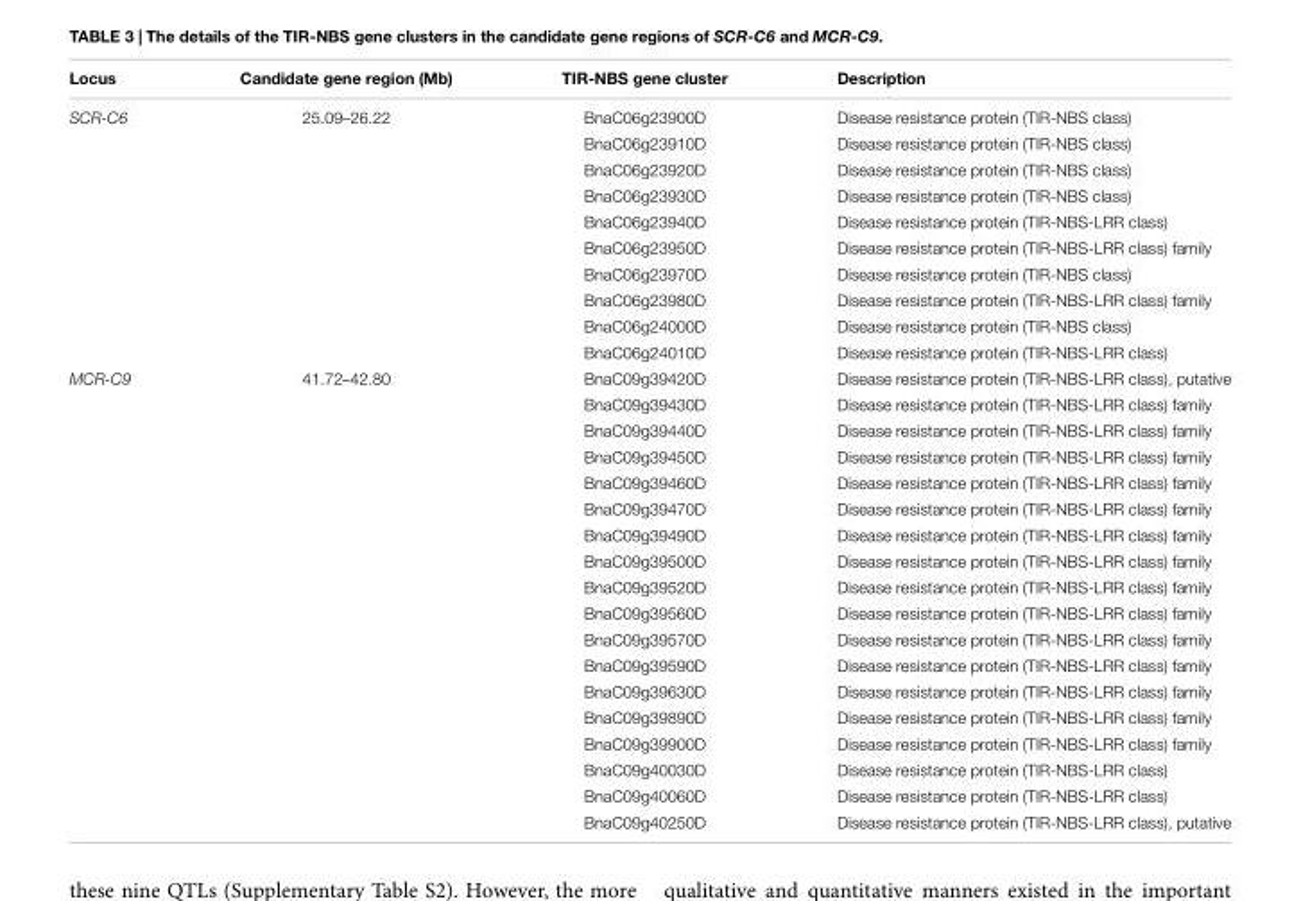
<table><thead><tr><td>Locus</td><td>Candidate gene region (Mb)</td><td>TIR-NBS gene cluster</td><td>Description</td></tr></thead><tbody><tr><td rowspan="10">SCR-C6</td><td>25.09–26.22</td><td>BnaC06g23900D</td><td>Disease resistance protein (TIR-NBS class)</td></tr><tr><td></td><td>BnaC06g23910D</td><td>Disease resistance protein (TIR-NBS class)</td></tr><tr><td></td><td>BnaC06g23920D</td><td>Disease resistance protein (TIR-NBS class)</td></tr><tr><td></td><td>BnaC06g23930D</td><td>Disease resistance protein (TIR-NBS class)</td></tr><tr><td></td><td>BnaC06g23940D</td><td>Disease resistance protein (TIR-NBS-LRR class)</td></tr><tr><td></td><td>BnaC06g23950D</td><td>Disease resistance protein (TIR-NBS-LRR class) family</td></tr><tr><td></td><td>BnaC06g23970D</td><td>Disease resistance protein (TIR-NBS class)</td></tr><tr><td></td><td>BnaC06g23980D</td><td>Disease resistance protein (TIR-NBS-LRR class) family</td></tr><tr><td></td><td>BnaC06g24000D</td><td>Disease resistance protein (TIR-NBS class)</td></tr><tr><td></td><td>BnaC06g24010D</td><td>Disease resistance protein (TIR-NBS-LRR class)</td></tr><tr><td rowspan="18">MCR-C9</td><td>41.72–42.80</td><td>BnaC09g39420D</td><td>Disease resistance protein (TIR-NBS-LRR class), putative</td></tr><tr><td></td><td>BnaC09g39430D</td><td>Disease resistance protein (TIR-NBS-LRR class) family</td></tr><tr><td></td><td>BnaC09g39440D</td><td>Disease resistance protein (TIR-NBS-LRR class) family</td></tr><tr><td></td><td>BnaC09g39450D</td><td>Disease resistance protein (TIR-NBS-LRR class) family</td></tr><tr><td></td><td>BnaC09g39460D</td><td>Disease resistance protein (TIR-NBS-LRR class) family</td></tr><tr><td></td><td>BnaC09g39470D</td><td>Disease resistance protein (TIR-NBS-LRR class) family</td></tr><tr><td></td><td>BnaC09g39490D</td><td>Disease resistance protein (TIR-NBS-LRR class) family</td></tr><tr><td></td><td>BnaC09g39500D</td><td>Disease resistance protein (TIR-NBS-LRR class) family</td></tr><tr><td></td><td>BnaC09g39520D</td><td>Disease resistance protein (TIR-NBS-LRR class) family</td></tr><tr><td></td><td>BnaC09g39560D</td><td>Disease resistance protein (TIR-NBS-LRR class) family</td></tr><tr><td></td><td>BnaC09g39570D</td><td>Disease resistance protein (TIR-NBS-LRR class) family</td></tr><tr><td></td><td>BnaC09g39590D</td><td>Disease resistance protein (TIR-NBS-LRR class) family</td></tr><tr><td></td><td>BnaC09g39630D</td><td>Disease resistance protein (TIR-NBS-LRR class) family</td></tr><tr><td></td><td>BnaC09g39890D</td><td>Disease resistance protein (TIR-NBS-LRR class) family</td></tr><tr><td></td><td>BnaC09g39900D</td><td>Disease resistance protein (TIR-NBS-LRR class) family</td></tr><tr><td></td><td>BnaC09g40030D</td><td>Disease resistance protein (TIR-NBS-LRR class)</td></tr><tr><td></td><td>BnaC09g40060D</td><td>Disease resistance protein (TIR-NBS-LRR class)</td></tr><tr><td></td><td>BnaC09g40250D</td><td>Disease resistance protein (TIR-NBS-LRR class), putative</td></tr></tbody></table>